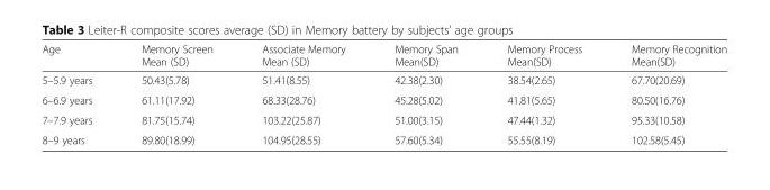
<table><thead><tr><td>Age</td><td>Memory Screen Mean (SD)</td><td>Associate Memory Mean (SD)</td><td>Memory Span Mean(SD)</td><td>Memory Process Mean(SD)</td><td>Memory Recognition Mean(SD)</td></tr></thead><tbody><tr><td>5–5.9 years</td><td>50.43(5.78)</td><td>51.41(8.55)</td><td>42.38(2.30)</td><td>38.54(2.65)</td><td>67.70(20.69)</td></tr><tr><td>6–6.9 years</td><td>61.11(17.92)</td><td>68.33(28.76)</td><td>45.28(5.02)</td><td>41.81(5.65)</td><td>80.50(16.76)</td></tr><tr><td>7–7.9 years</td><td>81.75(15.74)</td><td>103.22(25.87)</td><td>51.00(3.15)</td><td>47.44(1.32)</td><td>95.33(10.58)</td></tr><tr><td>8–9 years</td><td>89.80(18.99)</td><td>104.95(28.55)</td><td>57.60(5.34)</td><td>55.55(8.19)</td><td>102.58(5.45)</td></tr></tbody></table>